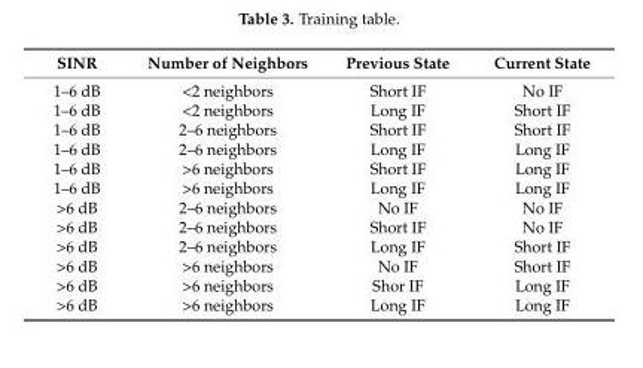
<table><thead><tr><td>SINR</td><td>Number of Neighbors</td><td>Previous State</td><td>Current State</td></tr></thead><tbody><tr><td>1–6 dB</td><td>&lt;2 neighbors</td><td>Short IF</td><td>No IF</td></tr><tr><td>1–6 dB</td><td>&lt;2 neighbors</td><td>Long IF</td><td>Short IF</td></tr><tr><td>1–6 dB</td><td>2–6 neighbors</td><td>Short IF</td><td>Short IF</td></tr><tr><td>1–6 dB</td><td>2–6 neighbors</td><td>Long IF</td><td>Long IF</td></tr><tr><td>1–6 dB</td><td>&gt;6 neighbors</td><td>Short IF</td><td>Long IF</td></tr><tr><td>1–6 dB</td><td>&gt;6 neighbors</td><td>Long IF</td><td>Long IF</td></tr><tr><td>&gt;6 dB</td><td>2–6 neighbors</td><td>No IF</td><td>No IF</td></tr><tr><td>&gt;6 dB</td><td>2–6 neighbors</td><td>Short IF</td><td>No IF</td></tr><tr><td>&gt;6 dB</td><td>2–6 neighbors</td><td>Long IF</td><td>Short IF</td></tr><tr><td>&gt;6 dB</td><td>&gt;6 neighbors</td><td>No IF</td><td>Short IF</td></tr><tr><td>&gt;6 dB</td><td>&gt;6 neighbors</td><td>Shor IF</td><td>Long IF</td></tr><tr><td>&gt;6 dB</td><td>&gt;6 neighbors</td><td>Long IF</td><td>Long IF</td></tr></tbody></table>